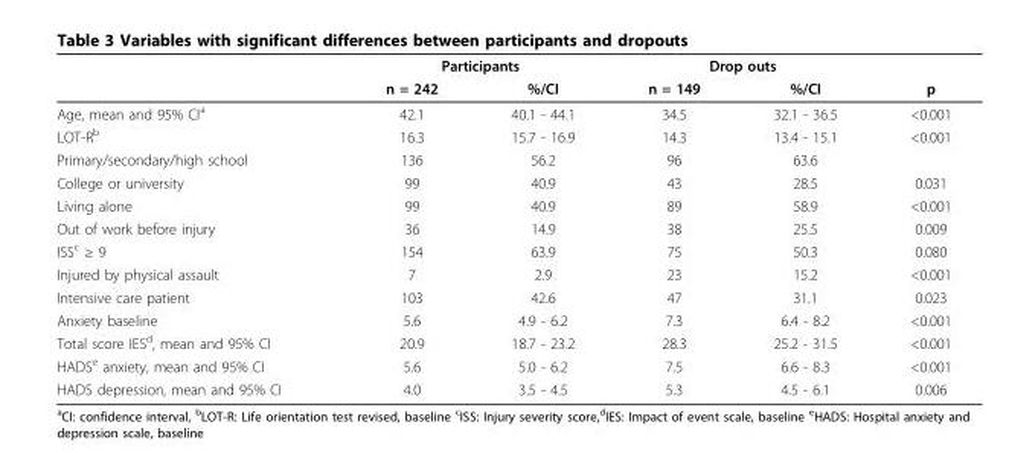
<table><thead><tr><td rowspan="2"></td><td colspan="2">Participants</td><td colspan="2">Drop outs</td><td rowspan="2">p</td></tr><tr><td>n = 242</td><td>%/CI</td><td>n = 149</td><td>%/CI</td></tr></thead><tbody><tr><td>Age, mean and 95% CI<sup>a</sup></td><td>42.1</td><td>40.1 - 44.1</td><td>34.5</td><td>32.1 - 36.5</td><td>&lt;0.001</td></tr><tr><td>LOT-R<sup>b</sup></td><td>16.3</td><td>15.7 - 16.9</td><td>14.3</td><td>13.4 - 15.1</td><td>&lt;0.001</td></tr><tr><td>Primary/secondary/high school</td><td>136</td><td>56.2</td><td>96</td><td>63.6</td><td></td></tr><tr><td>College or university</td><td>99</td><td>40.9</td><td>43</td><td>28.5</td><td>0.031</td></tr><tr><td>Living alone</td><td>99</td><td>40.9</td><td>89</td><td>58.9</td><td>&lt;0.001</td></tr><tr><td>Out of work before injury</td><td>36</td><td>14.9</td><td>38</td><td>25.5</td><td>0.009</td></tr><tr><td>ISS<sup>c</sup> ≥ 9</td><td>154</td><td>63.9</td><td>75</td><td>50.3</td><td>0.080</td></tr><tr><td>Injured by physical assault</td><td>7</td><td>2.9</td><td>23</td><td>15.2</td><td>&lt;0.001</td></tr><tr><td>Intensive care patient</td><td>103</td><td>42.6</td><td>47</td><td>31.1</td><td>0.023</td></tr><tr><td>Anxiety baseline</td><td>5.6</td><td>4.9 - 6.2</td><td>7.3</td><td>6.4 - 8.2</td><td>&lt;0.001</td></tr><tr><td>Total score IES<sup>d</sup>, mean and 95% CI</td><td>20.9</td><td>18.7 - 23.2</td><td>28.3</td><td>25.2 - 31.5</td><td>&lt;0.001</td></tr><tr><td>HADS<sup>e</sup> anxiety, mean and 95% CI</td><td>5.6</td><td>5.0 - 6.2</td><td>7.5</td><td>6.6 - 8.3</td><td>&lt;0.001</td></tr><tr><td>HADS depression, mean and 95% CI</td><td>4.0</td><td>3.5 - 4.5</td><td>5.3</td><td>4.5 - 6.1</td><td>0.006</td></tr></tbody></table>